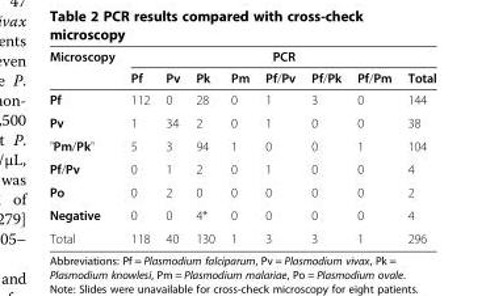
<table><thead><tr><td rowspan="2">Microscopy</td><td colspan="8">PCR</td></tr><tr><td>Pf</td><td>Pv</td><td>Pk</td><td>Pm</td><td>Pf/Pv</td><td>Pf/Pk</td><td>Pf/Pm</td><td>Total</td></tr></thead><tbody><tr><td>Pf</td><td>112</td><td>0</td><td>28</td><td>0</td><td>1</td><td>3</td><td>0</td><td>144</td></tr><tr><td>Pv</td><td>1</td><td>34</td><td>2</td><td>0</td><td>1</td><td>0</td><td>0</td><td>38</td></tr><tr><td>&quot;Pm/Pk&quot;</td><td>5</td><td>3</td><td>94</td><td>1</td><td>0</td><td>0</td><td>1</td><td>104</td></tr><tr><td>Pf/Pv</td><td>0</td><td>1</td><td>2</td><td>0</td><td>1</td><td>0</td><td>0</td><td>4</td></tr><tr><td>Po</td><td>0</td><td>2</td><td>0</td><td>0</td><td>0</td><td>0</td><td>0</td><td>2</td></tr><tr><td>Negative</td><td>0</td><td>0</td><td>4*</td><td>0</td><td>0</td><td>0</td><td>0</td><td>4</td></tr><tr><td>Total</td><td>118</td><td>40</td><td>130</td><td>1</td><td>3</td><td>3</td><td>1</td><td>296</td></tr></tbody></table>